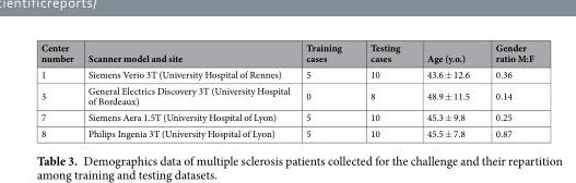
<table><thead><tr><td>Center number</td><td>Scanner model and site</td><td>Training cases</td><td>Testing cases</td><td>Age (y.o.)</td><td>Gender ratio M:F</td></tr></thead><tbody><tr><td>1</td><td>Siemens Verio 3T (University Hospital of Rennes)</td><td>5</td><td>10</td><td>43.6 ± 12.6</td><td>0.36</td></tr><tr><td>3</td><td>General Electrics Discovery 3T (University Hospital of Bordeaux)</td><td>0</td><td>8</td><td>48.9 ± 11.5</td><td>0.14</td></tr><tr><td>7</td><td>Siemens Aera 1.5T (University Hospital of Lyon)</td><td>5</td><td>10</td><td>45.3 ± 9.8</td><td>0.25</td></tr><tr><td>8</td><td>Philips Ingenia 3T (University Hospital of Lyon)</td><td>5</td><td>10</td><td>45.5 ± 7.8</td><td>0.87</td></tr></tbody></table>